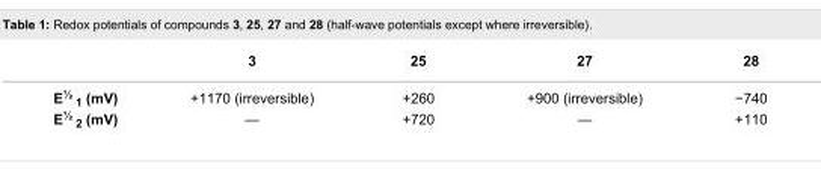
<table><thead><tr><td></td><td>3</td><td>25</td><td>27</td><td>28</td></tr></thead><tbody><tr><td>E<sup>½</sup> <sub>1</sub> (mV)</td><td>+1170 (irreversible)</td><td>+260</td><td>+900 (irreversible)</td><td>−740</td></tr><tr><td>E<sup>½</sup> <sub>2</sub> (mV)</td><td>—</td><td>+720</td><td>—</td><td>+110</td></tr></tbody></table>